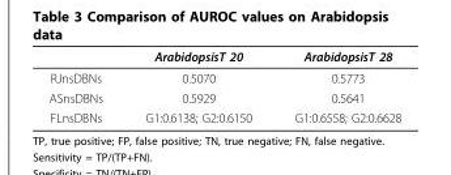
<table><thead><tr><td></td><td>ArabidopsisT 20</td><td>ArabidopsisT 28</td></tr></thead><tbody><tr><td>RJnsDBNs</td><td>0.5070</td><td>0.5773</td></tr><tr><td>ASnsDBNs</td><td>0.5929</td><td>0.5641</td></tr><tr><td>FLnsDBNs</td><td>G1:0.6138; G2:0.6150</td><td>G1:0.6558; G2:0.6628</td></tr></tbody></table>